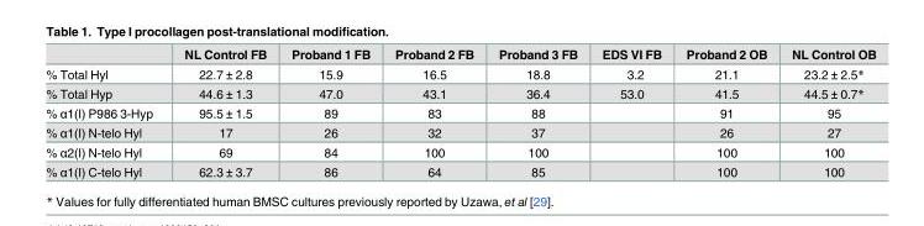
<table><thead><tr><td></td><td>NL Control FB</td><td>Proband 1 FB</td><td>Proband 2 FB</td><td>Proband 3 FB</td><td>EDS VI FB</td><td>Proband 2 OB</td><td>NL Control OB</td></tr></thead><tbody><tr><td>% Total Hyl</td><td>22.7 ± 2.8</td><td>15.9</td><td>16.5</td><td>18.8</td><td>3.2</td><td>21.1</td><td>23.2 ± 2.5*</td></tr><tr><td>% Total Hyp</td><td>44.6 ± 1.3</td><td>47.0</td><td>43.1</td><td>36.4</td><td>53.0</td><td>41.5</td><td>44.5 ± 0.7*</td></tr><tr><td>% α1(I) P986 3-Hyp</td><td>95.5 ± 1.5</td><td>89</td><td>83</td><td>88</td><td></td><td>91</td><td>95</td></tr><tr><td>% α1(I) N-telo Hyl</td><td>17</td><td>26</td><td>32</td><td>37</td><td></td><td>26</td><td>27</td></tr><tr><td>% α2(I) N-telo Hyl</td><td>69</td><td>84</td><td>100</td><td>100</td><td></td><td>100</td><td>100</td></tr><tr><td>% α1(I) C-telo Hyl</td><td>62.3 ± 3.7</td><td>86</td><td>64</td><td>85</td><td></td><td>100</td><td>100</td></tr></tbody></table>